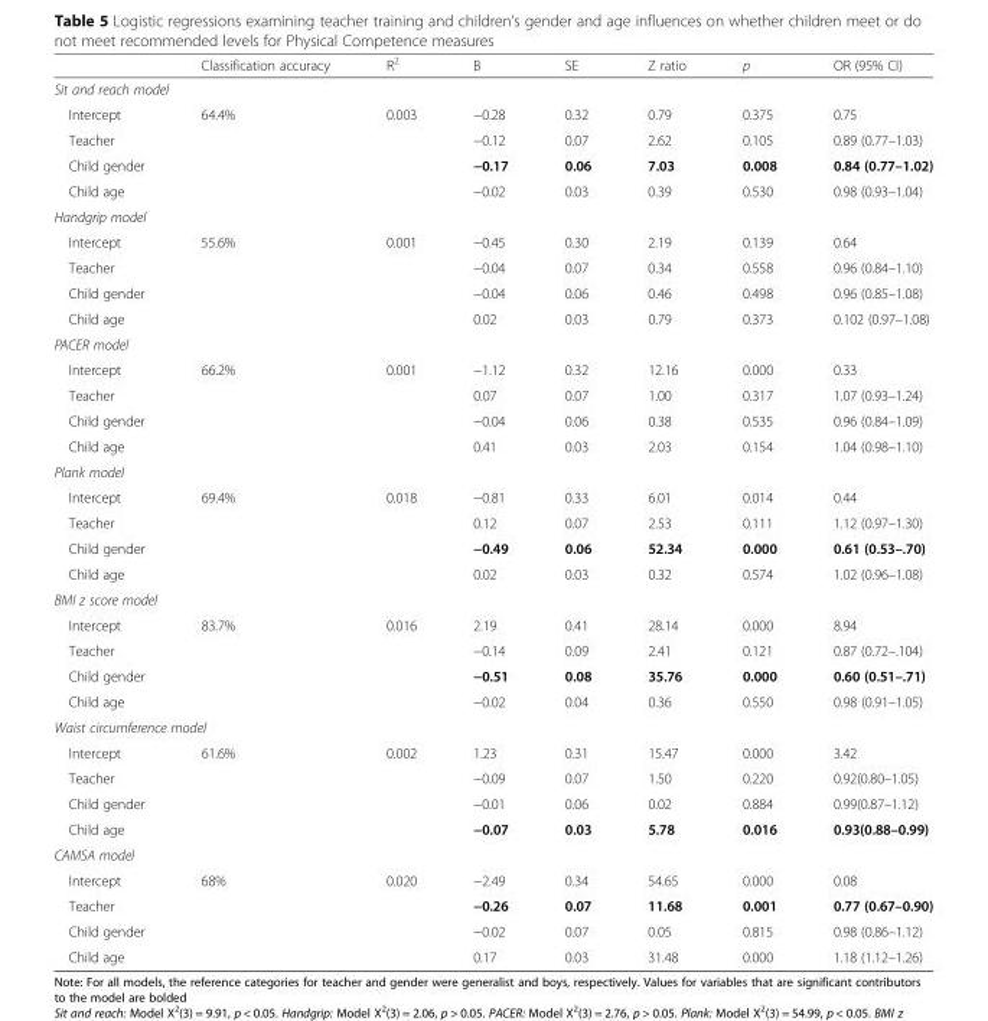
<table><thead><tr><td></td><td>Classification accuracy</td><td>R<sup>2</sup></td><td>B</td><td>SE</td><td>Z ratio</td><td>p</td><td>OR (95% CI)</td></tr></thead><tbody><tr><td colspan="8">Sit and reach model</td></tr><tr><td>Intercept</td><td>64.4%</td><td>0.003</td><td>−0.28</td><td>0.32</td><td>0.79</td><td>0.375</td><td>0.75</td></tr><tr><td>Teacher</td><td></td><td></td><td>−0.12</td><td>0.07</td><td>2.62</td><td>0.105</td><td>0.89 (0.77–1.03)</td></tr><tr><td>Child gender</td><td></td><td></td><td>−0.17</td><td>0.06</td><td>7.03</td><td>0.008</td><td>0.84 (0.77–1.02)</td></tr><tr><td>Child age</td><td></td><td></td><td>−0.02</td><td>0.03</td><td>0.39</td><td>0.530</td><td>0.98 (0.93–1.04)</td></tr><tr><td colspan="8">Handgrip model</td></tr><tr><td>Intercept</td><td>55.6%</td><td>0.001</td><td>−0.45</td><td>0.30</td><td>2.19</td><td>0.139</td><td>0.64</td></tr><tr><td>Teacher</td><td></td><td></td><td>−0.04</td><td>0.07</td><td>0.34</td><td>0.558</td><td>0.96 (0.84–1.10)</td></tr><tr><td>Child gender</td><td></td><td></td><td>−0.04</td><td>0.06</td><td>0.46</td><td>0.498</td><td>0.96 (0.85–1.08)</td></tr><tr><td>Child age</td><td></td><td></td><td>0.02</td><td>0.03</td><td>0.79</td><td>0.373</td><td>0.102 (0.97–1.08)</td></tr><tr><td colspan="8">PACER model</td></tr><tr><td>Intercept</td><td>66.2%</td><td>0.001</td><td>−1.12</td><td>0.32</td><td>12.16</td><td>0.000</td><td>0.33</td></tr><tr><td>Teacher</td><td></td><td></td><td>0.07</td><td>0.07</td><td>1.00</td><td>0.317</td><td>1.07 (0.93–1.24)</td></tr><tr><td>Child gender</td><td></td><td></td><td>−0.04</td><td>0.06</td><td>0.38</td><td>0.535</td><td>0.96 (0.84–1.09)</td></tr><tr><td>Child age</td><td></td><td></td><td>0.41</td><td>0.03</td><td>2.03</td><td>0.154</td><td>1.04 (0.98–1.10)</td></tr><tr><td colspan="8">Plank model</td></tr><tr><td>Intercept</td><td>69.4%</td><td>0.018</td><td>−0.81</td><td>0.33</td><td>6.01</td><td>0.014</td><td>0.44</td></tr><tr><td>Teacher</td><td></td><td></td><td>0.12</td><td>0.07</td><td>2.53</td><td>0.111</td><td>1.12 (0.97–1.30)</td></tr><tr><td>Child gender</td><td></td><td></td><td>−0.49</td><td>0.06</td><td>52.34</td><td>0.000</td><td>0.61 (0.53–.70)</td></tr><tr><td>Child age</td><td></td><td></td><td>0.02</td><td>0.03</td><td>0.32</td><td>0.574</td><td>1.02 (0.96–1.08)</td></tr><tr><td colspan="8">BMI z score model</td></tr><tr><td>Intercept</td><td>83.7%</td><td>0.016</td><td>2.19</td><td>0.41</td><td>28.14</td><td>0.000</td><td>8.94</td></tr><tr><td>Teacher</td><td></td><td></td><td>−0.14</td><td>0.09</td><td>2.41</td><td>0.121</td><td>0.87 (0.72–.104)</td></tr><tr><td>Child gender</td><td></td><td></td><td>−0.51</td><td>0.08</td><td>35.76</td><td>0.000</td><td>0.60 (0.51–.71)</td></tr><tr><td>Child age</td><td></td><td></td><td>−0.02</td><td>0.04</td><td>0.36</td><td>0.550</td><td>0.98 (0.91–1.05)</td></tr><tr><td colspan="8">Waist circumference model</td></tr><tr><td>Intercept</td><td>61.6%</td><td>0.002</td><td>1.23</td><td>0.31</td><td>15.47</td><td>0.000</td><td>3.42</td></tr><tr><td>Teacher</td><td></td><td></td><td>−0.09</td><td>0.07</td><td>1.50</td><td>0.220</td><td>0.92(0.80–1.05)</td></tr><tr><td>Child gender</td><td></td><td></td><td>−0.01</td><td>0.06</td><td>0.02</td><td>0.884</td><td>0.99(0.87–1.12)</td></tr><tr><td>Child age</td><td></td><td></td><td>−0.07</td><td>0.03</td><td>5.78</td><td>0.016</td><td>0.93(0.88–0.99)</td></tr><tr><td colspan="8">CAMSA model</td></tr><tr><td>Intercept</td><td>68%</td><td>0.020</td><td>−2.49</td><td>0.34</td><td>54.65</td><td>0.000</td><td>0.08</td></tr><tr><td>Teacher</td><td></td><td></td><td>−0.26</td><td>0.07</td><td>11.68</td><td>0.001</td><td>0.77 (0.67–0.90)</td></tr><tr><td>Child gender</td><td></td><td></td><td>−0.02</td><td>0.07</td><td>0.05</td><td>0.815</td><td>0.98 (0.86–1.12)</td></tr><tr><td>Child age</td><td></td><td></td><td>0.17</td><td>0.03</td><td>31.48</td><td>0.000</td><td>1.18 (1.12–1.26)</td></tr></tbody></table>